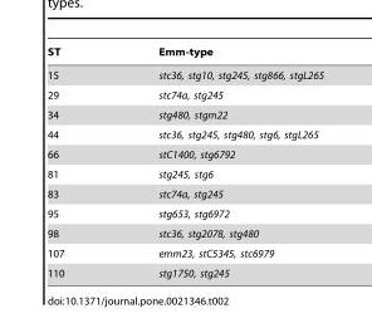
<table><thead><tr><td>ST</td><td>Emm-type</td></tr></thead><tbody><tr><td>15</td><td>stc36, stg10, stg245, stg866, stgL265</td></tr><tr><td>29</td><td>stc74a, stg245</td></tr><tr><td>34</td><td>stg480, stgm22</td></tr><tr><td>44</td><td>stc36, stg245, stg480, stg6, stgL265</td></tr><tr><td>66</td><td>stC1400, stg6792</td></tr><tr><td>81</td><td>stg245, stg6</td></tr><tr><td>83</td><td>stc74a, stg245</td></tr><tr><td>95</td><td>stg653, stg6972</td></tr><tr><td>98</td><td>stc36, stg2078, stg480</td></tr><tr><td>107</td><td>emm23, stC5345, stc6979</td></tr><tr><td>110</td><td>stg1750, stg245</td></tr></tbody></table>